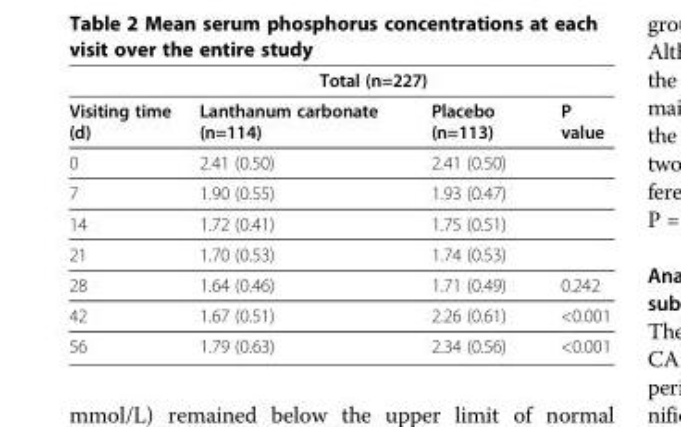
<table><thead><tr><td rowspan="2">Visiting time (d)</td><td colspan="2">Total (n=227)</td><td rowspan="2">P value</td></tr><tr><td>Lanthanum carbonate (n=114)</td><td>Placebo (n=113)</td></tr></thead><tbody><tr><td>0</td><td>2.41 (0.50)</td><td>2.41 (0.50)</td><td></td></tr><tr><td>7</td><td>1.90 (0.55)</td><td>1.93 (0.47)</td><td></td></tr><tr><td>14</td><td>1.72 (0.41)</td><td>1.75 (0.51)</td><td></td></tr><tr><td>21</td><td>1.70 (0.53)</td><td>1.74 (0.53)</td><td></td></tr><tr><td>28</td><td>1.64 (0.46)</td><td>1.71 (0.49)</td><td>0.242</td></tr><tr><td>42</td><td>1.67 (0.51)</td><td>2.26 (0.61)</td><td>&lt;0.001</td></tr><tr><td>56</td><td>1.79 (0.63)</td><td>2.34 (0.56)</td><td>&lt;0.001</td></tr></tbody></table>